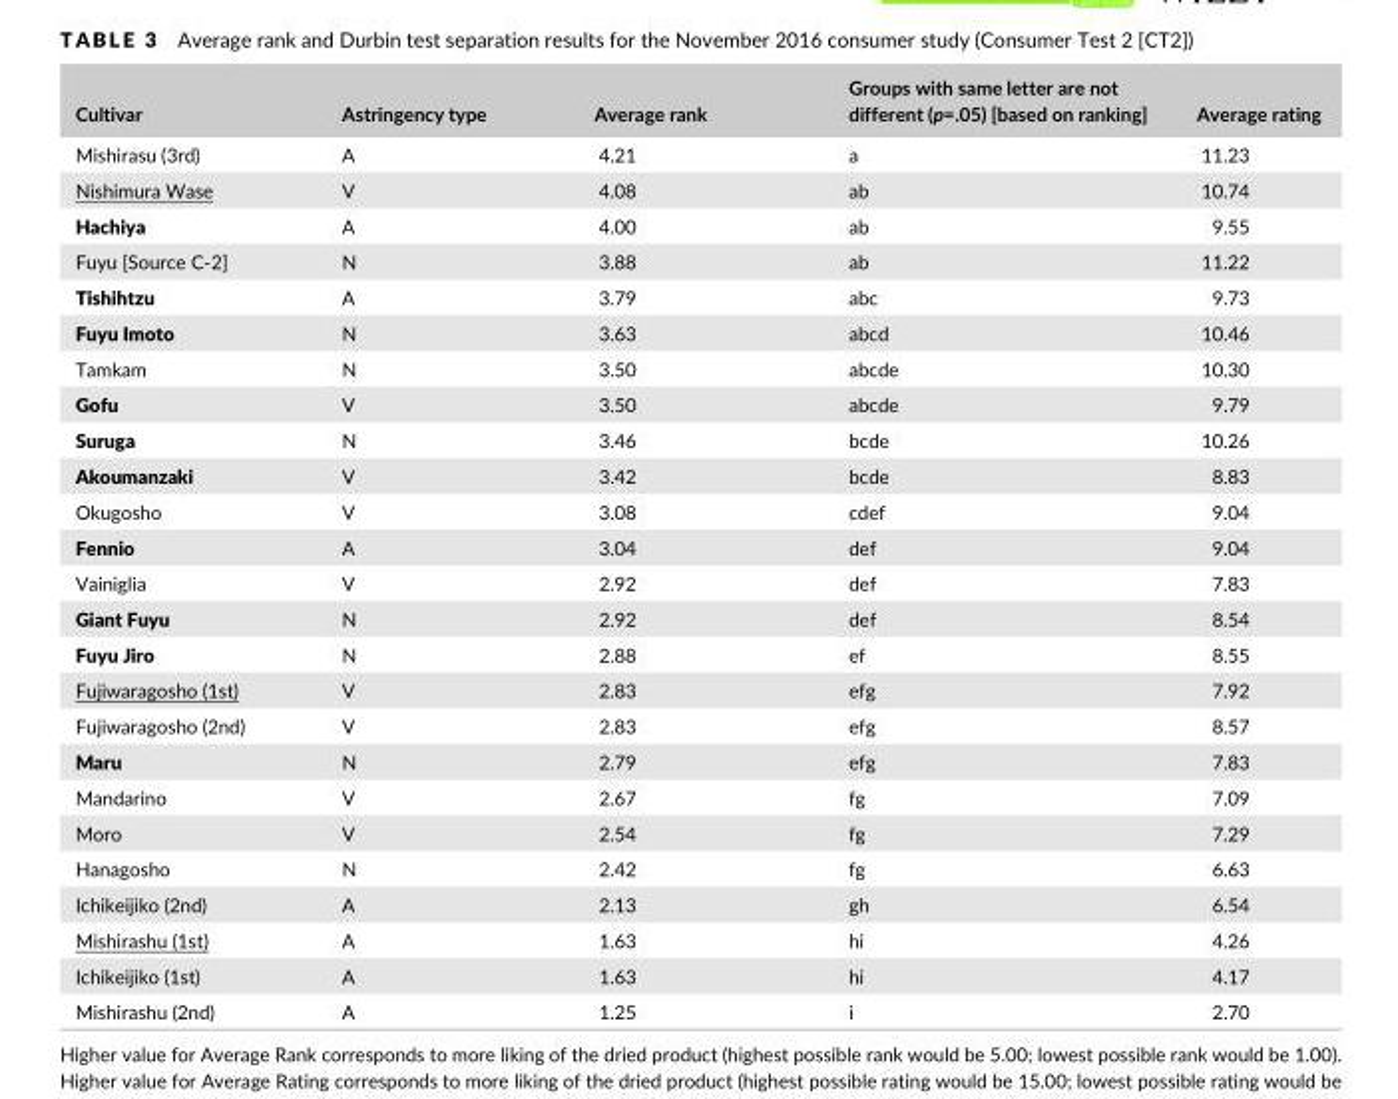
<table><thead><tr><td>Cultivar</td><td>Astringency type</td><td>Average rank</td><td>Groups with same letter are not different (p=.05) [based on ranking]</td><td>Average rating</td></tr></thead><tbody><tr><td>Mishirasu (3rd)</td><td>A</td><td>4.21</td><td>a</td><td>11.23</td></tr><tr><td>Nishimura Wase</td><td>V</td><td>4.08</td><td>ab</td><td>10.74</td></tr><tr><td>Hachiya</td><td>A</td><td>4.00</td><td>ab</td><td>9.55</td></tr><tr><td>Fuyu [Source C- 2]</td><td>N</td><td>3.88</td><td>ab</td><td>11.22</td></tr><tr><td>Tishihtzu</td><td>A</td><td>3.79</td><td>abc</td><td>9.73</td></tr><tr><td>Fuyu Imoto</td><td>N</td><td>3.63</td><td>abcd</td><td>10.46</td></tr><tr><td>Tamkam</td><td>N</td><td>3.50</td><td>abcde</td><td>10.30</td></tr><tr><td>Gofu</td><td>V</td><td>3.50</td><td>abcde</td><td>9.79</td></tr><tr><td>Suruga</td><td>N</td><td>3.46</td><td>bcde</td><td>10.26</td></tr><tr><td>Akoumanzaki</td><td>V</td><td>3.42</td><td>bcde</td><td>8.83</td></tr><tr><td>Okugosho</td><td>V</td><td>3.08</td><td>cdef</td><td>9.04</td></tr><tr><td>Fennio</td><td>A</td><td>3.04</td><td>def</td><td>9.04</td></tr><tr><td>Vainiglia</td><td>V</td><td>2.92</td><td>def</td><td>7.83</td></tr><tr><td>Giant Fuyu</td><td>N</td><td>2.92</td><td>def</td><td>8.54</td></tr><tr><td>Fuyu Jiro</td><td>N</td><td>2.88</td><td>ef</td><td>8.55</td></tr><tr><td>Fujiwaragosho (1st)</td><td>V</td><td>2.83</td><td>efg</td><td>7.92</td></tr><tr><td>Fujiwaragosho (2nd)</td><td>V</td><td>2.83</td><td>efg</td><td>8.57</td></tr><tr><td>Maru</td><td>N</td><td>2.79</td><td>efg</td><td>7.83</td></tr><tr><td>Mandarino</td><td>V</td><td>2.67</td><td>fg</td><td>7.09</td></tr><tr><td>Moro</td><td>V</td><td>2.54</td><td>fg</td><td>7.29</td></tr><tr><td>Hanagosho</td><td>N</td><td>2.42</td><td>fg</td><td>6.63</td></tr><tr><td>Ichikeijiko (2nd)</td><td>A</td><td>2.13</td><td>gh</td><td>6.54</td></tr><tr><td>Mishirashu (1st)</td><td>A</td><td>1.63</td><td>hi</td><td>4.26</td></tr><tr><td>Ichikeijiko (1st)</td><td>A</td><td>1.63</td><td>hi</td><td>4.17</td></tr><tr><td>Mishirashu (2nd)</td><td>A</td><td>1.25</td><td>i</td><td>2.70</td></tr></tbody></table>